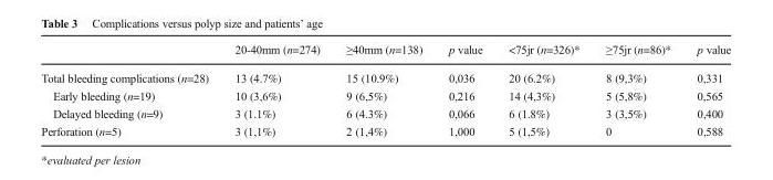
<table><thead><tr><td></td><td>20-40mm (n=274)</td><td>≥40mm (n=138)</td><td>p value</td><td>&lt;75jr (n=326)*</td><td>≥75jr (n=86)*</td><td>p value</td></tr></thead><tbody><tr><td>Total bleeding complications (n=28)</td><td>13 (4.7%)</td><td>15 (10.9%)</td><td>0,036</td><td>20 (6.2%)</td><td>8 (9,3%)</td><td>0,331</td></tr><tr><td>Early bleeding (n=19)</td><td>10 (3,6%)</td><td>9 (6,5%)</td><td>0,216</td><td>14 (4,3%)</td><td>5 (5,8%)</td><td>0,565</td></tr><tr><td>Delayed bleeding (n=9)</td><td>3 (1.1%)</td><td>6 (4.3%)</td><td>0,066</td><td>6 (1.8%)</td><td>3 (3,5%)</td><td>0,400</td></tr><tr><td>Perforation (n=5)</td><td>3 (1,1%)</td><td>2 (1,4%)</td><td>1,000</td><td>5 (1,5%)</td><td>0</td><td>0,588</td></tr></tbody></table>